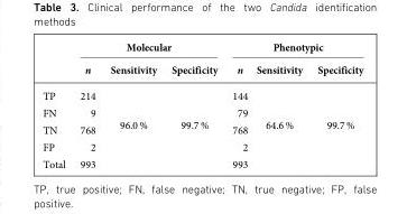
<table><thead><tr><td rowspan="2"></td><td colspan="3">Molecular</td><td colspan="3">Phenotypic</td></tr><tr><td>n</td><td>Sensitivity</td><td>Specificity</td><td>n</td><td>Sensitivity</td><td>Specificity</td></tr></thead><tbody><tr><td>TP</td><td>214</td><td rowspan="4">96.0 %</td><td rowspan="4">99.7 %</td><td>144</td><td rowspan="4">64.6 %</td><td rowspan="4">99.7 %</td></tr><tr><td>FN</td><td>9</td><td>79</td></tr><tr><td>TN</td><td>768</td><td>768</td></tr><tr><td>FP</td><td>2</td><td>2</td></tr><tr><td>Total</td><td>993</td><td></td><td></td><td>993</td><td></td><td></td></tr></tbody></table>